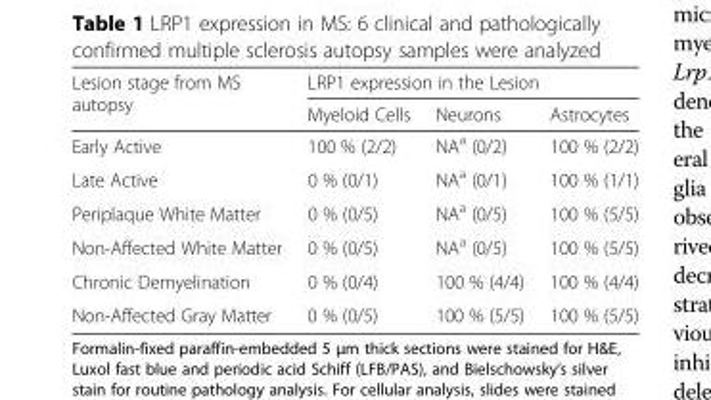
<table><thead><tr><td rowspan="2">Lesion stage from MS autopsy</td><td colspan="3">LRP1 expression in the Lesion</td></tr><tr><td>Myeloid Cells</td><td>Neurons</td><td>Astrocytes</td></tr></thead><tbody><tr><td>Early Active</td><td>100 % (2/2)</td><td>NA<sup>a</sup> (0/2)</td><td>100 % (2/2)</td></tr><tr><td>Late Active</td><td>0 % (0/1)</td><td>NA<sup>a</sup> (0/1)</td><td>100 % (1/1)</td></tr><tr><td>Periplaque White Matter</td><td>0 % (0/5)</td><td>NA<sup>a</sup> (0/5)</td><td>100 % (5/5)</td></tr><tr><td>Non-Affected White Matter</td><td>0 % (0/5)</td><td>NA<sup>a</sup> (0/5)</td><td>100 % (5/5)</td></tr><tr><td>Chronic Demyelination</td><td>0 % (0/4)</td><td>100 % (4/4)</td><td>100 % (4/4)</td></tr><tr><td>Non-Affected Gray Matter</td><td>0 % (0/5)</td><td>100 % (5/5)</td><td>100 % (5/5)</td></tr></tbody></table>